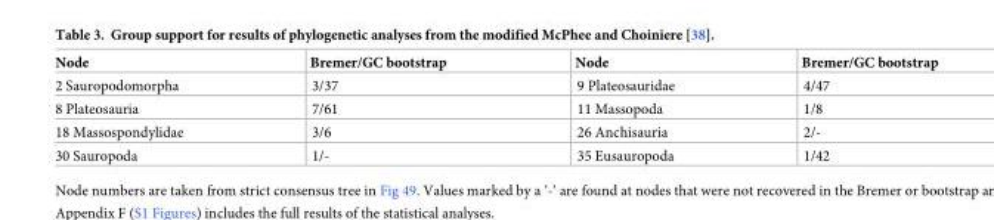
<table><thead><tr><td>Node</td><td>Bremer/GC bootstrap</td><td>Node</td><td>Bremer/GC bootstrap</td></tr></thead><tbody><tr><td>2 Sauropodomorpha</td><td>3/37</td><td>9 Plateosauridae</td><td>4/47</td></tr><tr><td>8 Plateosauria</td><td>7/61</td><td>11 Massopoda</td><td>1/8</td></tr><tr><td>18 Massospondylidae</td><td>3/6</td><td>26 Anchisauria</td><td>2/-</td></tr><tr><td>30 Sauropoda</td><td>1/-</td><td>35 Eusauropoda</td><td>1/42</td></tr></tbody></table>